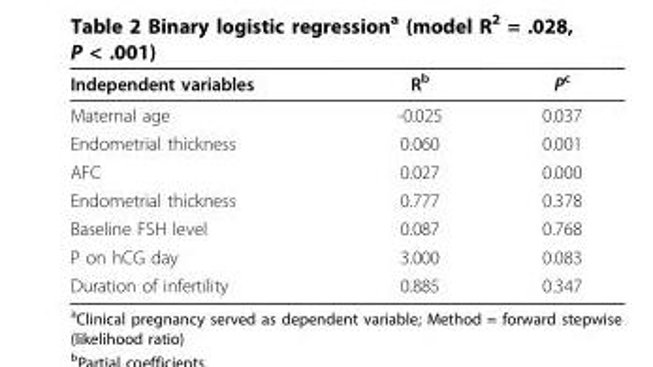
<table><thead><tr><td>Independent variables</td><td>R<sup>b</sup></td><td>P<sup>c</sup></td></tr></thead><tbody><tr><td>Maternal age</td><td>-0.025</td><td>0.037</td></tr><tr><td>Endometrial thickness</td><td>0.060</td><td>0.001</td></tr><tr><td>AFC</td><td>0.027</td><td>0.000</td></tr><tr><td>Endometrial thickness</td><td>0.777</td><td>0.378</td></tr><tr><td>Baseline FSH level</td><td>0.087</td><td>0.768</td></tr><tr><td>P on hCG day</td><td>3.000</td><td>0.083</td></tr><tr><td>Duration of infertility</td><td>0.885</td><td>0.347</td></tr></tbody></table>